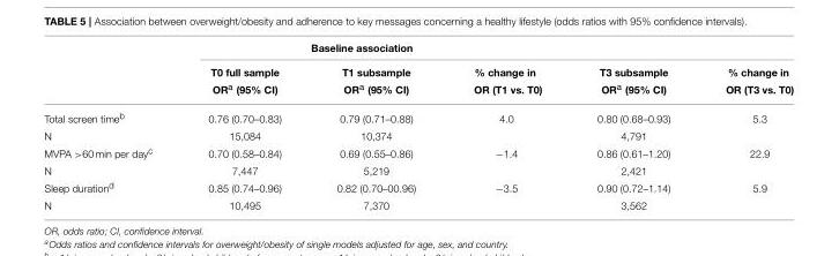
<table><thead><tr><td rowspan="3"></td><td colspan="5">Baseline association</td></tr><tr><td rowspan="2">T0 full sample OR<sup>a</sup> (95% CI)</td><td rowspan="2">T1 subsample OR<sup>a</sup> (95% CI)</td><td rowspan="2">% change in OR (T1 vs. T0)</td><td rowspan="2">T3 subsample OR<sup>a</sup> (95% CI)</td><td rowspan="2">% change in OR (T3 vs. T0)</td></tr><tr></tr></thead><tbody><tr><td>Total screen time<sup>b</sup></td><td>0.76 (0.70–0.83)</td><td>0.79 (0.71–0.88)</td><td>4.0</td><td>0.80 (0.68–0.93)</td><td>5.3</td></tr><tr><td>N</td><td>15,084</td><td>10,374</td><td></td><td>4,791</td><td></td></tr><tr><td>MVPA &gt;60 min per day<sup>c</sup></td><td>0.70 (0.58–0.84)</td><td>0.69 (0.55–0.86)</td><td>−1.4</td><td>0.86 (0.61–1.20)</td><td>22.9</td></tr><tr><td>N</td><td>7,447</td><td>5,219</td><td></td><td>2,421</td><td></td></tr><tr><td>Sleep duration<sup>d</sup></td><td>0.85 (0.74–0.96)</td><td>0.82 (0.70–00.96)</td><td>−3.5</td><td>0.90 (0.72–1.14)</td><td>5.9</td></tr><tr><td>N</td><td>10,495</td><td>7,370</td><td></td><td>3,562</td><td></td></tr></tbody></table>